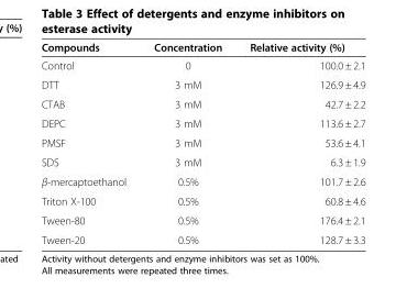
<table><thead><tr><td>Compounds</td><td>Concentration</td><td>Relative activity (%)</td></tr></thead><tbody><tr><td>Control</td><td>0</td><td>100.0 ± 2.1</td></tr><tr><td>DTT</td><td>3 mM</td><td>126.9 ± 4.9</td></tr><tr><td>CTAB</td><td>3 mM</td><td>42.7 ± 2.2</td></tr><tr><td>DEPC</td><td>3 mM</td><td>113.6 ± 2.7</td></tr><tr><td>PMSF</td><td>3 mM</td><td>53.6 ± 4.1</td></tr><tr><td>SDS</td><td>3 mM</td><td>6.3 ± 1.9</td></tr><tr><td>β-mercaptoethanol</td><td>0.5%</td><td>101.7 ± 2.6</td></tr><tr><td>Triton X-100</td><td>0.5%</td><td>60.8 ± 4.6</td></tr><tr><td>Tween-80</td><td>0.5%</td><td>176.4 ± 2.1</td></tr><tr><td>Tween-20</td><td>0.5%</td><td>128.7 ± 3.3</td></tr></tbody></table>